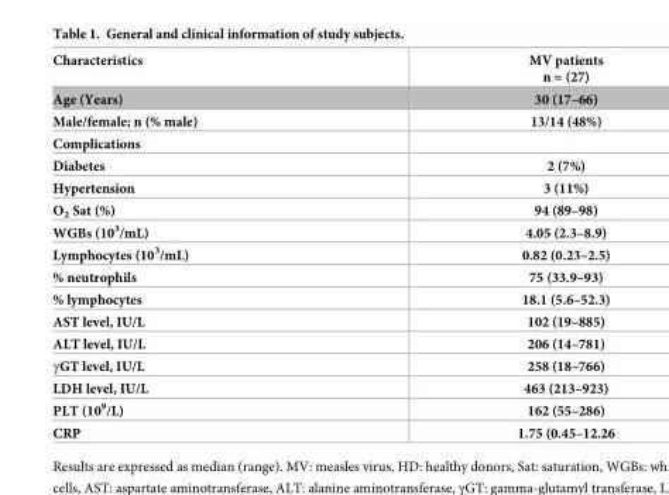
<table><thead><tr><td>Characteristics</td><td>MV patients n = (27)</td></tr></thead><tbody><tr><td>Age (Years)</td><td>30 (17–66)</td></tr><tr><td>Male/female; n (% male)</td><td>13/14 (48%)</td></tr><tr><td colspan="2">Complications</td></tr><tr><td>Diabetes</td><td>2 (7%)</td></tr><tr><td>Hypertension</td><td>3 (11%)</td></tr><tr><td>O<sub>2</sub> Sat (%)</td><td>94 (89–98)</td></tr><tr><td>WGBs (10<sup>3</sup>/mL)</td><td>4.05 (2.3–8.9)</td></tr><tr><td>Lymphocytes (10<sup>3</sup>/mL)</td><td>0.82 (0.23–2.5)</td></tr><tr><td>% neutrophils</td><td>75 (33.9–93)</td></tr><tr><td>% lymphocytes</td><td>18.1 (5.6–52.3)</td></tr><tr><td>AST level, IU/L</td><td>102 (19–885)</td></tr><tr><td>ALT level, IU/L</td><td>206 (14–781)</td></tr><tr><td>γGT level, IU/L</td><td>258 (18–766)</td></tr><tr><td>LDH level, IU/L</td><td>463 (213–923)</td></tr><tr><td>PLT (10<sup>9</sup>/L)</td><td>162 (55–286)</td></tr><tr><td>CRP</td><td>1.75 (0.45–12.26</td></tr></tbody></table>